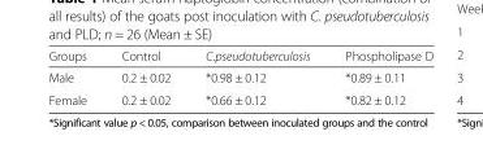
<table><thead><tr><td>Groups</td><td>Control</td><td>C.pseudotuberculosis</td><td>Phospholipase D</td></tr></thead><tbody><tr><td>Male</td><td>0.2 ± 0.02</td><td>*0.98 ± 0.12</td><td>*0.89 ± 0.11</td></tr><tr><td>Female</td><td>0.2 ± 0.02</td><td>*0.66 ± 0.12</td><td>*0.82 ± 0.12</td></tr></tbody></table>